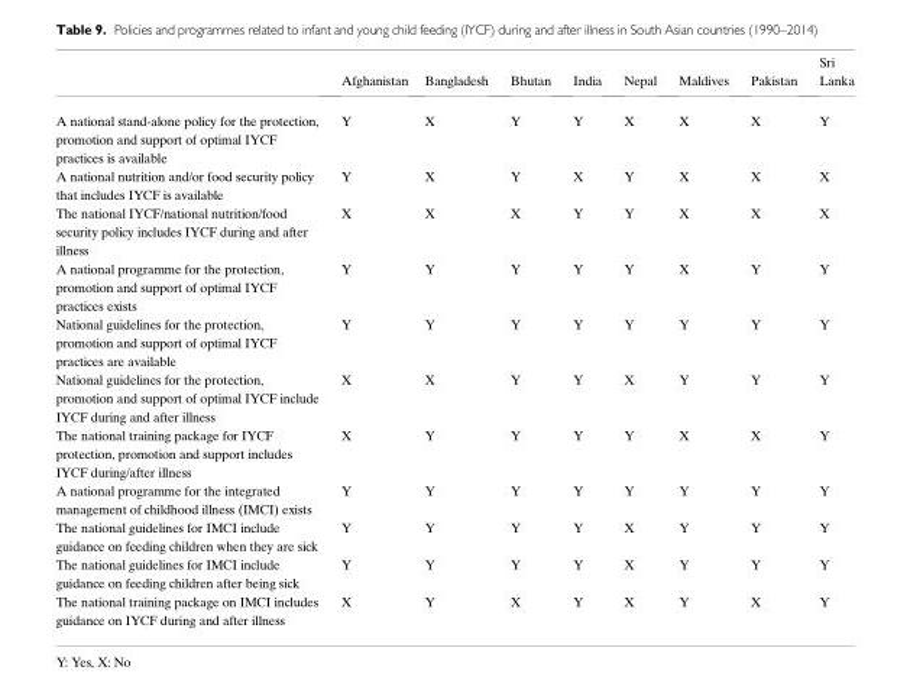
<table><thead><tr><td></td><td>Afghanistan</td><td>Bangladesh</td><td>Bhutan</td><td>India</td><td>Nepal</td><td>Maldives</td><td>Pakistan</td><td>Sri Lanka</td></tr></thead><tbody><tr><td>A national stand-alone policy for the protection, promotion and support of optimal IYCF practices is available</td><td>Y</td><td>X</td><td>Y</td><td>Y</td><td>X</td><td>X</td><td>X</td><td>Y</td></tr><tr><td>A national nutrition and/or food security policy that includes IYCF is available</td><td>Y</td><td>X</td><td>Y</td><td>X</td><td>Y</td><td>X</td><td>X</td><td>X</td></tr><tr><td>The national IYCF/national nutrition/food security policy includes IYCF during and after illness</td><td>X</td><td>X</td><td>X</td><td>Y</td><td>Y</td><td>X</td><td>X</td><td>X</td></tr><tr><td>A national programme for the protection, promotion and support of optimal IYCF practices exists</td><td>Y</td><td>Y</td><td>Y</td><td>Y</td><td>Y</td><td>X</td><td>Y</td><td>Y</td></tr><tr><td>National guidelines for the protection, promotion and support of optimal IYCF practices are available</td><td>Y</td><td>Y</td><td>Y</td><td>Y</td><td>Y</td><td>Y</td><td>Y</td><td>Y</td></tr><tr><td>National guidelines for the protection, promotion and support of optimal IYCF include IYCF during and after illness</td><td>X</td><td>X</td><td>Y</td><td>Y</td><td>X</td><td>Y</td><td>Y</td><td>Y</td></tr><tr><td>The national training package for IYCF protection, promotion and support includes IYCF during/after illness</td><td>X</td><td>Y</td><td>Y</td><td>Y</td><td>Y</td><td>X</td><td>X</td><td>Y</td></tr><tr><td>A national programme for the integrated management of childhood illness (IMCI) exists</td><td>Y</td><td>Y</td><td>Y</td><td>Y</td><td>Y</td><td>Y</td><td>Y</td><td>Y</td></tr><tr><td>The national guidelines for IMCI include guidance on feeding children when they are sick</td><td>Y</td><td>Y</td><td>Y</td><td>Y</td><td>X</td><td>Y</td><td>Y</td><td>Y</td></tr><tr><td>The national guidelines for IMCI include guidance on feeding children after being sick</td><td>Y</td><td>Y</td><td>Y</td><td>Y</td><td>X</td><td>Y</td><td>Y</td><td>Y</td></tr><tr><td>The national training package on IMCI includes guidance on IYCF during and after illness</td><td>X</td><td>Y</td><td>X</td><td>Y</td><td>X</td><td>Y</td><td>X</td><td>Y</td></tr></tbody></table>